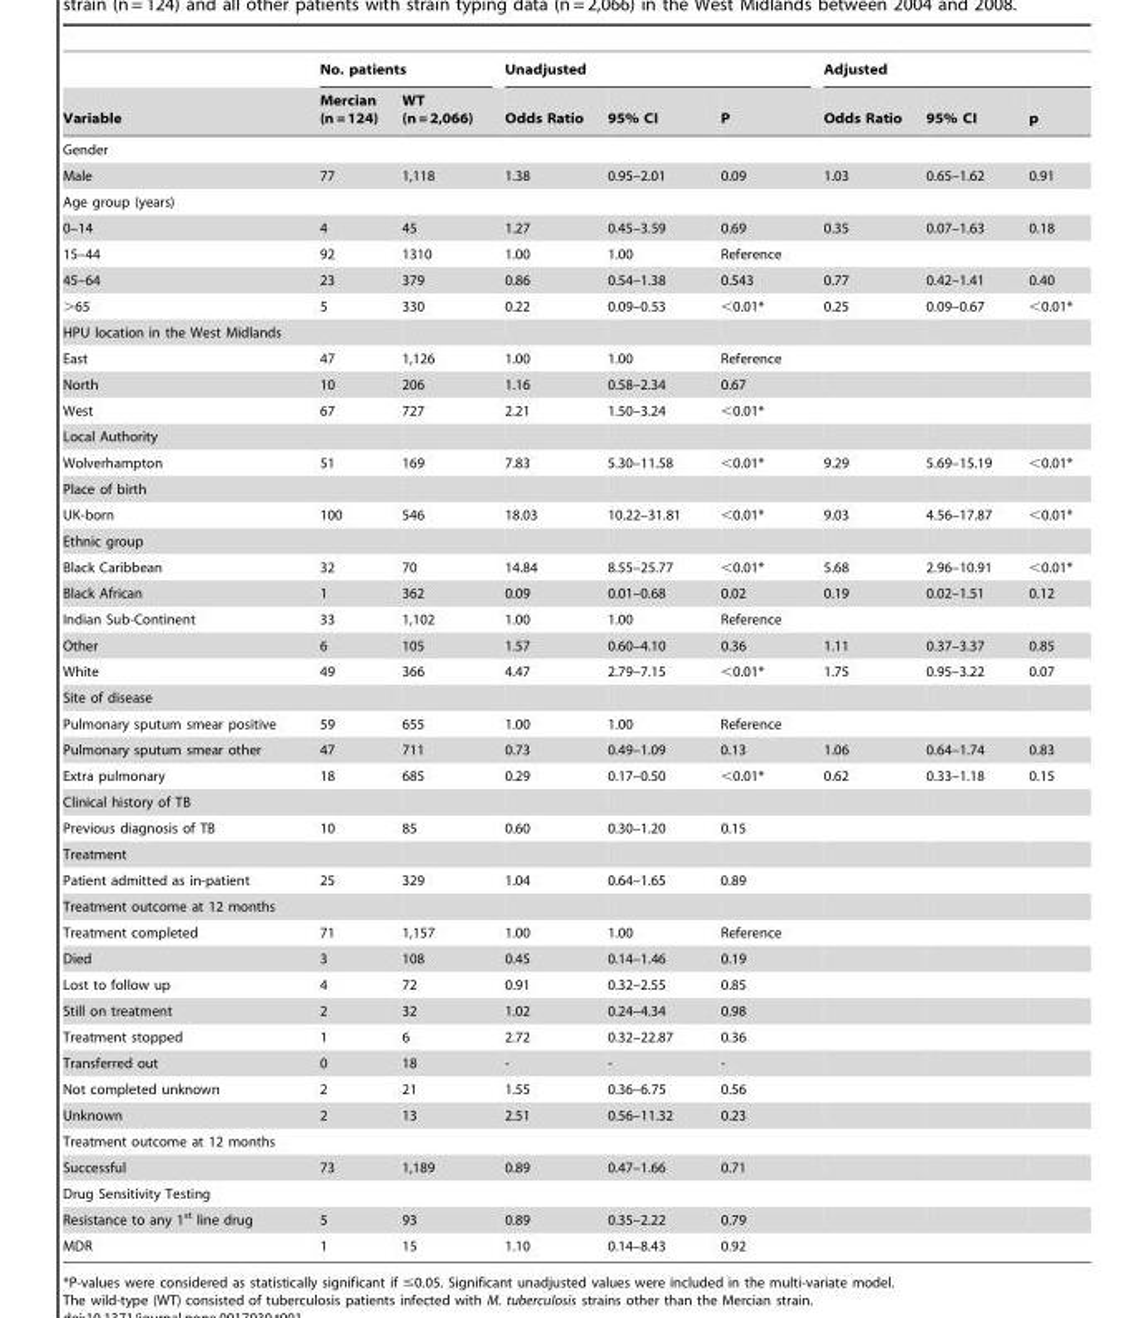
<table><thead><tr><td rowspan="2">Variable</td><td colspan="2">No. patients</td><td colspan="3">Unadjusted</td><td colspan="3">Adjusted</td></tr><tr><td>Mercian (n = 124)</td><td>WT (n = 2,066)</td><td>Odds Ratio</td><td>95% CI</td><td>P</td><td>Odds Ratio</td><td>95% CI</td><td>p</td></tr></thead><tbody><tr><td colspan="9">Gender</td></tr><tr><td>Male</td><td>77</td><td>1,118</td><td>1.38</td><td>0.95–2.01</td><td>0.09</td><td>1.03</td><td>0.65–1.62</td><td>0.91</td></tr><tr><td colspan="9">Age group (years)</td></tr><tr><td>0–14</td><td>4</td><td>45</td><td>1.27</td><td>0.45–3.59</td><td>0.69</td><td>0.35</td><td>0.07–1.63</td><td>0.18</td></tr><tr><td>15–44</td><td>92</td><td>1310</td><td>1.00</td><td>1.00</td><td>Reference</td><td></td><td></td><td></td></tr><tr><td>45–64</td><td>23</td><td>379</td><td>0.86</td><td>0.54–1.38</td><td>0.543</td><td>0.77</td><td>0.42–1.41</td><td>0.40</td></tr><tr><td>&gt;65</td><td>5</td><td>330</td><td>0.22</td><td>0.09–0.53</td><td>&lt;0.01*</td><td>0.25</td><td>0.09–0.67</td><td>&lt;0.01*</td></tr><tr><td colspan="9">HPU location in the West Midlands</td></tr><tr><td>East</td><td>47</td><td>1,126</td><td>1.00</td><td>1.00</td><td>Reference</td><td></td><td></td><td></td></tr><tr><td>North</td><td>10</td><td>206</td><td>1.16</td><td>0.58–2.34</td><td>0.67</td><td></td><td></td><td></td></tr><tr><td>West</td><td>67</td><td>727</td><td>2.21</td><td>1.50–3.24</td><td>&lt;0.01*</td><td></td><td></td><td></td></tr><tr><td colspan="9">Local Authority</td></tr><tr><td>Wolverhampton</td><td>51</td><td>169</td><td>7.83</td><td>5.30–11.58</td><td>&lt;0.01*</td><td>9.29</td><td>5.69–15.19</td><td>&lt;0.01*</td></tr><tr><td colspan="9">Place of birth</td></tr><tr><td>UK-born</td><td>100</td><td>546</td><td>18.03</td><td>10.22–31.81</td><td>&lt;0.01*</td><td>9.03</td><td>4.56–17.87</td><td>&lt;0.01*</td></tr><tr><td colspan="9">Ethnic group</td></tr><tr><td>Black Caribbean</td><td>32</td><td>70</td><td>14.84</td><td>8.55–25.77</td><td>&lt;0.01*</td><td>5.68</td><td>2.96–10.91</td><td>&lt;0.01*</td></tr><tr><td>Black African</td><td>1</td><td>362</td><td>0.09</td><td>0.01–0.68</td><td>0.02</td><td>0.19</td><td>0.02–1.51</td><td>0.12</td></tr><tr><td>Indian Sub-Continent</td><td>33</td><td>1,102</td><td>1.00</td><td>1.00</td><td>Reference</td><td></td><td></td><td></td></tr><tr><td>Other</td><td>6</td><td>105</td><td>1.57</td><td>0.60–4.10</td><td>0.36</td><td>1.11</td><td>0.37–3.37</td><td>0.85</td></tr><tr><td>White</td><td>49</td><td>366</td><td>4.47</td><td>2.79–7.15</td><td>&lt;0.01*</td><td>1.75</td><td>0.95–3.22</td><td>0.07</td></tr><tr><td colspan="9">Site of disease</td></tr><tr><td>Pulmonary sputum smear positive</td><td>59</td><td>655</td><td>1.00</td><td>1.00</td><td>Reference</td><td></td><td></td><td></td></tr><tr><td>Pulmonary sputum smear other</td><td>47</td><td>711</td><td>0.73</td><td>0.49–1.09</td><td>0.13</td><td>1.06</td><td>0.64–1.74</td><td>0.83</td></tr><tr><td>Extra pulmonary</td><td>18</td><td>685</td><td>0.29</td><td>0.17–0.50</td><td>&lt;0.01*</td><td>0.62</td><td>0.33–1.18</td><td>0.15</td></tr><tr><td colspan="9">Clinical history of TB</td></tr><tr><td>Previous diagnosis of TB</td><td>10</td><td>85</td><td>0.60</td><td>0.30–1.20</td><td>0.15</td><td></td><td></td><td></td></tr><tr><td colspan="9">Treatment</td></tr><tr><td>Patient admitted as in-patient</td><td>25</td><td>329</td><td>1.04</td><td>0.64–1.65</td><td>0.89</td><td></td><td></td><td></td></tr><tr><td colspan="9">Treatment outcome at 12 months</td></tr><tr><td>Treatment completed</td><td>71</td><td>1,157</td><td>1.00</td><td>1.00</td><td>Reference</td><td></td><td></td><td></td></tr><tr><td>Died</td><td>3</td><td>108</td><td>0.45</td><td>0.14–1.46</td><td>0.19</td><td></td><td></td><td></td></tr><tr><td>Lost to follow up</td><td>4</td><td>72</td><td>0.91</td><td>0.32–2.55</td><td>0.85</td><td></td><td></td><td></td></tr><tr><td>Still on treatment</td><td>2</td><td>32</td><td>1.02</td><td>0.24–4.34</td><td>0.98</td><td></td><td></td><td></td></tr><tr><td>Treatment stopped</td><td>1</td><td>6</td><td>2.72</td><td>0.32–22.87</td><td>0.36</td><td></td><td></td><td></td></tr><tr><td>Transferred out</td><td>0</td><td>18</td><td>-</td><td>-</td><td>-</td><td></td><td></td><td></td></tr><tr><td>Not completed unknown</td><td>2</td><td>21</td><td>1.55</td><td>0.36–6.75</td><td>0.56</td><td></td><td></td><td></td></tr><tr><td>Unknown</td><td>2</td><td>13</td><td>2.51</td><td>0.56–11.32</td><td>0.23</td><td></td><td></td><td></td></tr><tr><td colspan="9">Treatment outcome at 12 months</td></tr><tr><td>Successful</td><td>73</td><td>1,189</td><td>0.89</td><td>0.47–1.66</td><td>0.71</td><td></td><td></td><td></td></tr><tr><td colspan="9">Drug Sensitivity Testing</td></tr><tr><td>Resistance to any 1<sup>st</sup> line drug</td><td>5</td><td>93</td><td>0.89</td><td>0.35–2.22</td><td>0.79</td><td></td><td></td><td></td></tr><tr><td>MDR</td><td>1</td><td>15</td><td>1.10</td><td>0.14–8.43</td><td>0.92</td><td></td><td></td><td></td></tr></tbody></table>